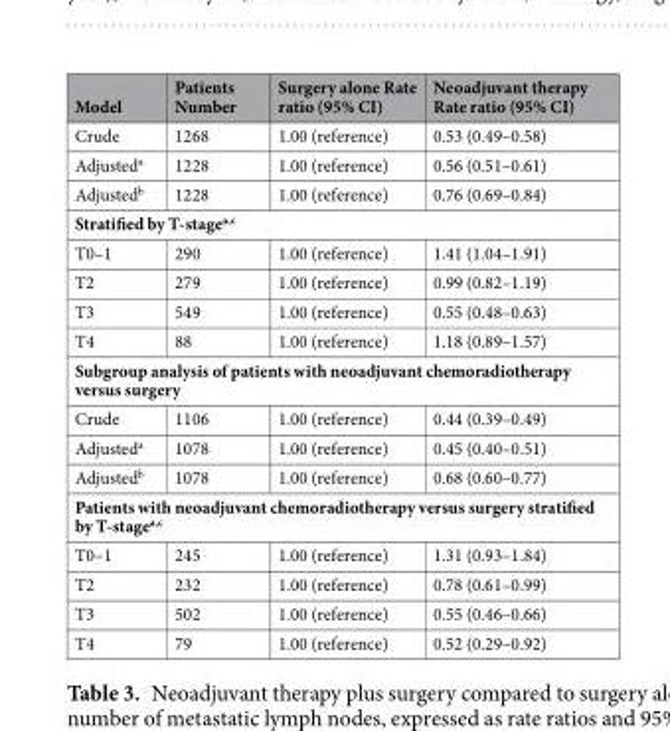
<table><thead><tr><td>Model</td><td>Patients Number</td><td>Surgery alone Rate ratio (95% CI)</td><td>Neoadjuvant therapy Rate ratio (95% CI)</td></tr></thead><tbody><tr><td>Crude</td><td>1268</td><td>1.00 (reference)</td><td>0.53 (0.49–0.58)</td></tr><tr><td>Adjusted<sup>a</sup></td><td>1228</td><td>1.00 (reference)</td><td>0.56 (0.51–0.61)</td></tr><tr><td>Adjusted<sup>b</sup></td><td>1228</td><td>1.00 (reference)</td><td>0.76 (0.69–0.84)</td></tr><tr><td colspan="4">Stratified by T-stage<sup>a,c</sup></td></tr><tr><td>T0–1</td><td>290</td><td>1.00 (reference)</td><td>1.41 (1.04–1.91)</td></tr><tr><td>T2</td><td>279</td><td>1.00 (reference)</td><td>0.99 (0.82–1.19)</td></tr><tr><td>T3</td><td>549</td><td>1.00 (reference)</td><td>0.55 (0.48–0.63)</td></tr><tr><td>T4</td><td>88</td><td>1.00 (reference)</td><td>1.18 (0.89–1.57)</td></tr><tr><td colspan="4">Subgroup analysis of patients with neoadjuvant chemoradiotherapy versus surgery</td></tr><tr><td>Crude</td><td>1106</td><td>1.00 (reference)</td><td>0.44 (0.39–0.49)</td></tr><tr><td>Adjusted<sup>a</sup></td><td>1078</td><td>1.00 (reference)</td><td>0.45 (0.40–0.51)</td></tr><tr><td>Adjusted<sup>b</sup></td><td>1078</td><td>1.00 (reference)</td><td>0.68 (0.60–0.77)</td></tr><tr><td colspan="4">Patients with neoadjuvant chemoradiotherapy versus surgery stratified by T-stage<sup>a,c</sup></td></tr><tr><td>T0–1</td><td>245</td><td>1.00 (reference)</td><td>1.31 (0.93–1.84)</td></tr><tr><td>T2</td><td>232</td><td>1.00 (reference)</td><td>0.78 (0.61–0.99)</td></tr><tr><td>T3</td><td>502</td><td>1.00 (reference)</td><td>0.55 (0.46–0.66)</td></tr><tr><td>T4</td><td>79</td><td>1.00 (reference)</td><td>0.52 (0.29–0.92)</td></tr></tbody></table>